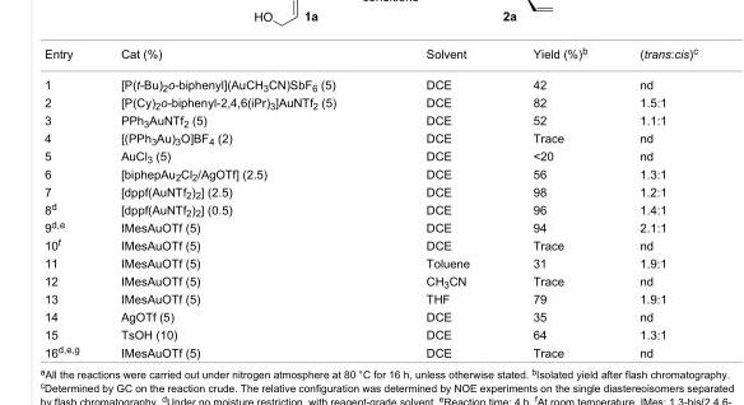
<table><tbody><tr><td>Entry</td><td>Cat (%)</td><td>Solvent</td><td>Yield (%)<sup>b</sup></td><td>(trans:cis)<sup>c</sup></td></tr><tr><td>1</td><td>[P(t-Bu)<sub>2</sub>o-biphenyl](AuCH<sub>3</sub>CN)SbF<sub>6</sub> (5)</td><td>DCE</td><td>42</td><td>nd</td></tr><tr><td>2</td><td>[P(Cy)<sub>2</sub>o-biphenyl-2,4,6(iPr)<sub>3</sub>]AuNTf<sub>2</sub> (5)</td><td>DCE</td><td>82</td><td>1.5:1</td></tr><tr><td>3</td><td>PPh<sub>3</sub>AuNTf<sub>2</sub> (5)</td><td>DCE</td><td>52</td><td>1.1:1</td></tr><tr><td>4</td><td>[(PPh<sub>3</sub>Au)<sub>3</sub>O]BF<sub>4</sub> (2)</td><td>DCE</td><td>Trace</td><td>nd</td></tr><tr><td>5</td><td>AuCl<sub>3</sub> (5)</td><td>DCE</td><td>&lt;20</td><td>nd</td></tr><tr><td>6</td><td>[biphepAu<sub>2</sub>Cl<sub>2</sub>/AgOTf] (2.5)</td><td>DCE</td><td>56</td><td>1.3:1</td></tr><tr><td>7</td><td>[dppf(AuNTf<sub>2</sub>)<sub>2</sub>] (2.5)</td><td>DCE</td><td>98</td><td>1.2:1</td></tr><tr><td>8<sup>d</sup></td><td>[dppf(AuNTf<sub>2</sub>)<sub>2</sub>] (0.5)</td><td>DCE</td><td>96</td><td>1.4:1</td></tr><tr><td>9<sup>d,e</sup></td><td>IMesAuOTf (5)</td><td>DCE</td><td>94</td><td>2.1:1</td></tr><tr><td>10<sup>f</sup></td><td>IMesAuOTf (5)</td><td>DCE</td><td>Trace</td><td>nd</td></tr><tr><td>11</td><td>IMesAuOTf (5)</td><td>Toluene</td><td>31</td><td>1.9:1</td></tr><tr><td>12</td><td>IMesAuOTf (5)</td><td>CH<sub>3</sub>CN</td><td>Trace</td><td>nd</td></tr><tr><td>13</td><td>IMesAuOTf (5)</td><td>THF</td><td>79</td><td>1.9:1</td></tr><tr><td>14</td><td>AgOTf (5)</td><td>DCE</td><td>35</td><td>nd</td></tr><tr><td>15</td><td>TsOH (10)</td><td>DCE</td><td>64</td><td>1.3:1</td></tr><tr><td>16<sup>d,e,g</sup></td><td>IMesAuOTf (5)</td><td>DCE</td><td>Trace</td><td>nd</td></tr></tbody></table>